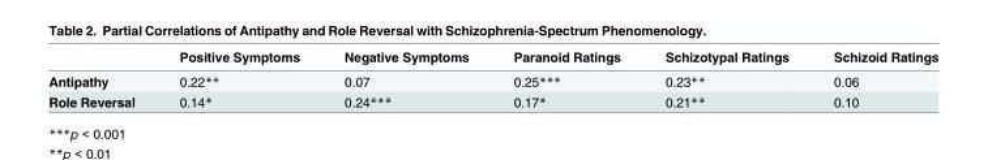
<table><thead><tr><td></td><td>Positive Symptoms</td><td>Negative Symptoms</td><td>Paranoid Ratings</td><td>Schizotypal Ratings</td><td>Schizoid Ratings</td></tr></thead><tbody><tr><td>Antipathy</td><td>0.22**</td><td>0.07</td><td>0.25***</td><td>0.23**</td><td>0.06</td></tr><tr><td>Role Reversal</td><td>0.14*</td><td>0.24***</td><td>0.17*</td><td>0.21**</td><td>0.10</td></tr></tbody></table>